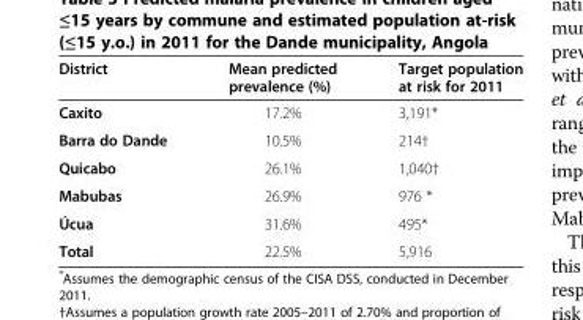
<table><thead><tr><td>District</td><td>Mean predicted prevalence (%)</td><td>Target population at risk for 2011</td></tr></thead><tbody><tr><td>Caxito</td><td>17.2%</td><td>3,191*</td></tr><tr><td>Barra do Dande</td><td>10.5%</td><td>214†</td></tr><tr><td>Quicabo</td><td>26.1%</td><td>1,040†</td></tr><tr><td>Mabubas</td><td>26.9%</td><td>976 *</td></tr><tr><td>Úcua</td><td>31.6%</td><td>495*</td></tr><tr><td>Total</td><td>22.5%</td><td>5,916</td></tr></tbody></table>